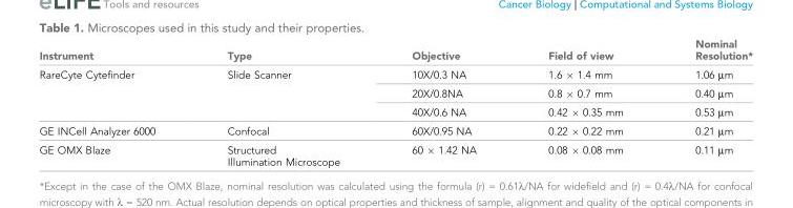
<table><thead><tr><td>Instrument</td><td>Type</td><td>Objective</td><td>Field of view</td><td>Nominal Resolution*</td></tr></thead><tbody><tr><td rowspan="3">RareCyte Cytefinder</td><td rowspan="3">Slide Scanner</td><td>10X/0.3 NA</td><td>1.6 × 1.4 mm</td><td>1.06 µm</td></tr><tr><td>20X/0.8NA</td><td>0.8 × 0.7 mm</td><td>0.40 µm</td></tr><tr><td>40X/0.6 NA</td><td>0.42 × 0.35 mm</td><td>0.53 µm</td></tr><tr><td>GE INCell Analyzer 6000</td><td>Confocal</td><td>60X/0.95 NA</td><td>0.22 × 0.22 mm</td><td>0.21 µm</td></tr><tr><td>GE OMX Blaze</td><td>Structured Illumination Microscope</td><td>60 × 1.42 NA</td><td>0.08 × 0.08 mm</td><td>0.11 µm</td></tr></tbody></table>